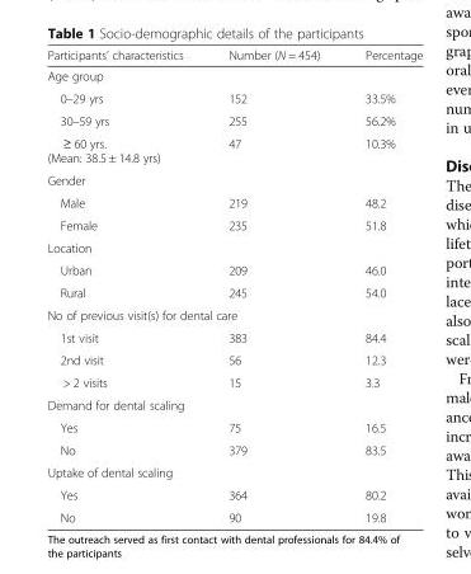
<table><thead><tr><td>Participants’ characteristics</td><td>Number (N = 454)</td><td>Percentage</td></tr></thead><tbody><tr><td colspan="3">Age group</td></tr><tr><td>0–29 yrs</td><td>152</td><td>33.5%</td></tr><tr><td>30–59 yrs</td><td>255</td><td>56.2%</td></tr><tr><td>≥ 60 yrs. (Mean: 38.5 ± 14.8 yrs)</td><td>47</td><td>10.3%</td></tr><tr><td colspan="3">Gender</td></tr><tr><td>Male</td><td>219</td><td>48.2</td></tr><tr><td>Female</td><td>235</td><td>51.8</td></tr><tr><td colspan="3">Location</td></tr><tr><td>Urban</td><td>209</td><td>46.0</td></tr><tr><td>Rural</td><td>245</td><td>54.0</td></tr><tr><td colspan="3">No of previous visit(s) for dental care</td></tr><tr><td>1st visit</td><td>383</td><td>84.4</td></tr><tr><td>2nd visit</td><td>56</td><td>12.3</td></tr><tr><td>&gt; 2 visits</td><td>15</td><td>3.3</td></tr><tr><td colspan="3">Demand for dental scaling</td></tr><tr><td>Yes</td><td>75</td><td>16.5</td></tr><tr><td>No</td><td>379</td><td>83.5</td></tr><tr><td colspan="3">Uptake of dental scaling</td></tr><tr><td>Yes</td><td>364</td><td>80.2</td></tr><tr><td>No</td><td>90</td><td>19.8</td></tr></tbody></table>